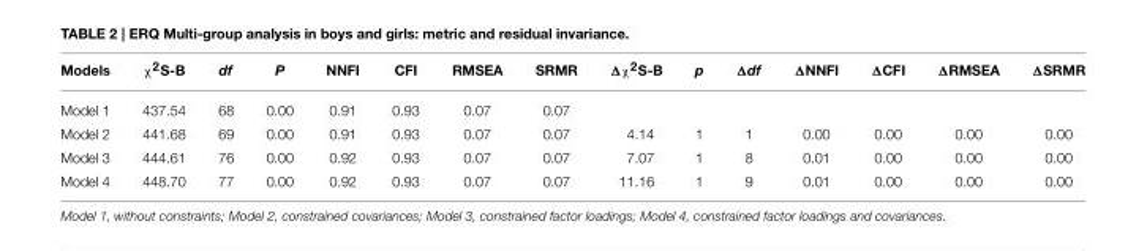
<table><thead><tr><td>Models</td><td>χ<sup>2</sup>S-B</td><td>df</td><td>P</td><td>NNFI</td><td>CFI</td><td>RMSEA</td><td>SRMR</td><td>Δχ<sup>2</sup>S-B</td><td>p</td><td>Δdf</td><td>ΔNNFI</td><td>ΔCFI</td><td>ΔRMSEA</td><td>ΔSRMR</td></tr></thead><tbody><tr><td>Model 1</td><td>437.54</td><td>68</td><td>0.00</td><td>0.91</td><td>0.93</td><td>0.07</td><td>0.07</td><td></td><td></td><td></td><td></td><td></td><td></td><td></td></tr><tr><td>Model 2</td><td>441.68</td><td>69</td><td>0.00</td><td>0.91</td><td>0.93</td><td>0.07</td><td>0.07</td><td>4.14</td><td>1</td><td>1</td><td>0.00</td><td>0.00</td><td>0.00</td><td>0.00</td></tr><tr><td>Model 3</td><td>444.61</td><td>76</td><td>0.00</td><td>0.92</td><td>0.93</td><td>0.07</td><td>0.07</td><td>7.07</td><td>1</td><td>8</td><td>0.01</td><td>0.00</td><td>0.00</td><td>0.00</td></tr><tr><td>Model 4</td><td>448.70</td><td>77</td><td>0.00</td><td>0.92</td><td>0.93</td><td>0.07</td><td>0.07</td><td>11.16</td><td>1</td><td>9</td><td>0.01</td><td>0.00</td><td>0.00</td><td>0.00</td></tr></tbody></table>